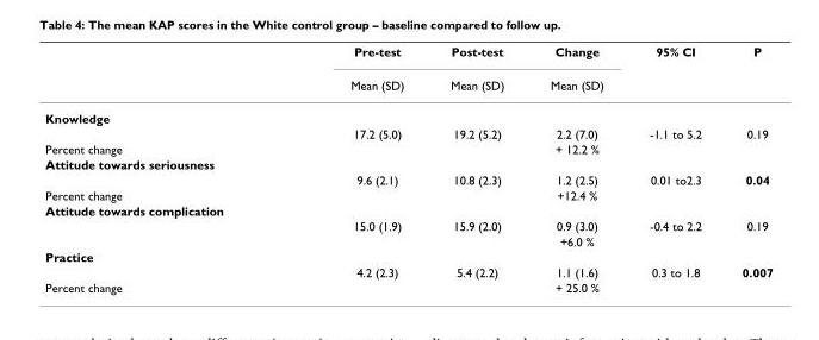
<table><thead><tr><td rowspan="2"></td><td rowspan="2">Pre-test Mean (SD)</td><td rowspan="2">Post-test Mean (SD)</td><td rowspan="2">Change Mean (SD)</td><td rowspan="2">95% CI</td><td rowspan="2">P</td></tr><tr></tr></thead><tbody><tr><td colspan="6">Knowledge</td></tr><tr><td></td><td>17.2 (5.0)</td><td>19.2 (5.2)</td><td>2.2 (7.0)</td><td>-1.1 to 5.2</td><td>0.19</td></tr><tr><td>Percent change</td><td></td><td></td><td>+ 12.2 %</td><td></td><td></td></tr><tr><td colspan="6">Attitude towards seriousness</td></tr><tr><td></td><td>9.6 (2.1)</td><td>10.8 (2.3)</td><td>1.2 (2.5)</td><td>0.01 to2.3</td><td>0.04</td></tr><tr><td>Percent change</td><td></td><td></td><td>+12.4 %</td><td></td><td></td></tr><tr><td colspan="6">Attitude towards complication</td></tr><tr><td></td><td>15.0 (1.9)</td><td>15.9 (2.0)</td><td>0.9 (3.0)</td><td>-0.4 to 2.2</td><td>0.19</td></tr><tr><td></td><td></td><td></td><td>+6.0 %</td><td></td><td></td></tr><tr><td colspan="6">Practice</td></tr><tr><td></td><td>4.2 (2.3)</td><td>5.4 (2.2)</td><td>1.1 (1.6)</td><td>0.3 to 1.8</td><td>0.007</td></tr><tr><td>Percent change</td><td></td><td></td><td>+ 25.0 %</td><td></td><td></td></tr></tbody></table>